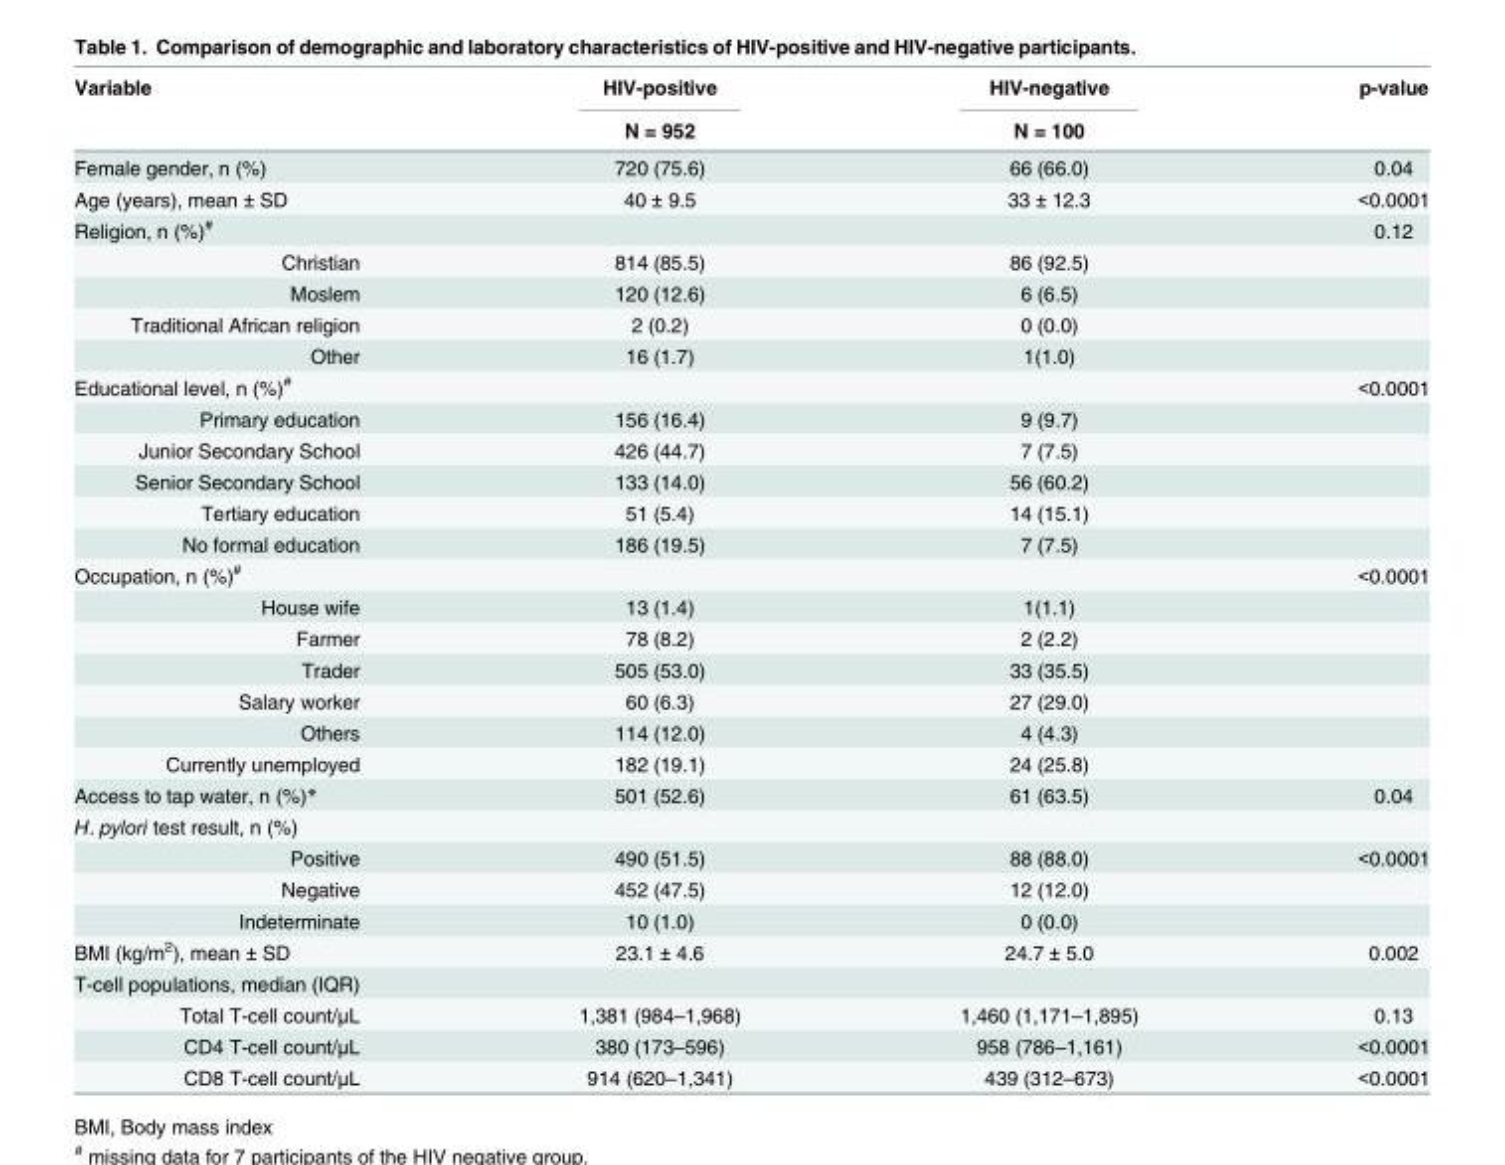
<table><thead><tr><td rowspan="2">Variable</td><td rowspan="2">HIV-positive N = 952</td><td rowspan="2">HIV-negative N = 100</td><td rowspan="2">p-value</td></tr><tr></tr></thead><tbody><tr><td>Female gender, n (%)</td><td>720 (75.6)</td><td>66 (66.0)</td><td>0.04</td></tr><tr><td>Age (years), mean ± SD</td><td>40 ± 9.5</td><td>33 ± 12.3</td><td>&lt;0.0001</td></tr><tr><td>Religion, n (%)<sup>#</sup></td><td></td><td></td><td>0.12</td></tr><tr><td>Christian</td><td>814 (85.5)</td><td>86 (92.5)</td><td></td></tr><tr><td>Moslem</td><td>120 (12.6)</td><td>6 (6.5)</td><td></td></tr><tr><td>Traditional African religion</td><td>2 (0.2)</td><td>0 (0.0)</td><td></td></tr><tr><td>Other</td><td>16 (1.7)</td><td>1(1.0)</td><td></td></tr><tr><td>Educational level, n (%)<sup>#</sup></td><td></td><td></td><td>&lt;0.0001</td></tr><tr><td>Primary education</td><td>156 (16.4)</td><td>9 (9.7)</td><td></td></tr><tr><td>Junior Secondary School</td><td>426 (44.7)</td><td>7 (7.5)</td><td></td></tr><tr><td>Senior Secondary School</td><td>133 (14.0)</td><td>56 (60.2)</td><td></td></tr><tr><td>Tertiary education</td><td>51 (5.4)</td><td>14 (15.1)</td><td></td></tr><tr><td>No formal education</td><td>186 (19.5)</td><td>7 (7.5)</td><td></td></tr><tr><td>Occupation, n (%)<sup>#</sup></td><td></td><td></td><td>&lt;0.0001</td></tr><tr><td>House wife</td><td>13 (1.4)</td><td>1(1.1)</td><td></td></tr><tr><td>Farmer</td><td>78 (8.2)</td><td>2 (2.2)</td><td></td></tr><tr><td>Trader</td><td>505 (53.0)</td><td>33 (35.5)</td><td></td></tr><tr><td>Salary worker</td><td>60 (6.3)</td><td>27 (29.0)</td><td></td></tr><tr><td>Others</td><td>114 (12.0)</td><td>4 (4.3)</td><td></td></tr><tr><td>Currently unemployed</td><td>182 (19.1)</td><td>24 (25.8)</td><td></td></tr><tr><td>Access to tap water, n (%)*</td><td>501 (52.6)</td><td>61 (63.5)</td><td>0.04</td></tr><tr><td colspan="4">H. pylori test result, n (%)</td></tr><tr><td>Positive</td><td>490 (51.5)</td><td>88 (88.0)</td><td>&lt;0.0001</td></tr><tr><td>Negative</td><td>452 (47.5)</td><td>12 (12.0)</td><td></td></tr><tr><td>Indeterminate</td><td>10 (1.0)</td><td>0 (0.0)</td><td></td></tr><tr><td>BMI (kg/m<sup>2</sup>), mean ± SD</td><td>23.1 ± 4.6</td><td>24.7 ± 5.0</td><td>0.002</td></tr><tr><td colspan="4">T-cell populations, median (IQR)</td></tr><tr><td>Total T-cell count/μL</td><td>1,381 (984–1,968)</td><td>1,460 (1,171–1,895)</td><td>0.13</td></tr><tr><td>CD4 T-cell count/μL</td><td>380 (173–596)</td><td>958 (786–1,161)</td><td>&lt;0.0001</td></tr><tr><td>CD8 T-cell count/μL</td><td>914 (620–1,341)</td><td>439 (312–673)</td><td>&lt;0.0001</td></tr></tbody></table>